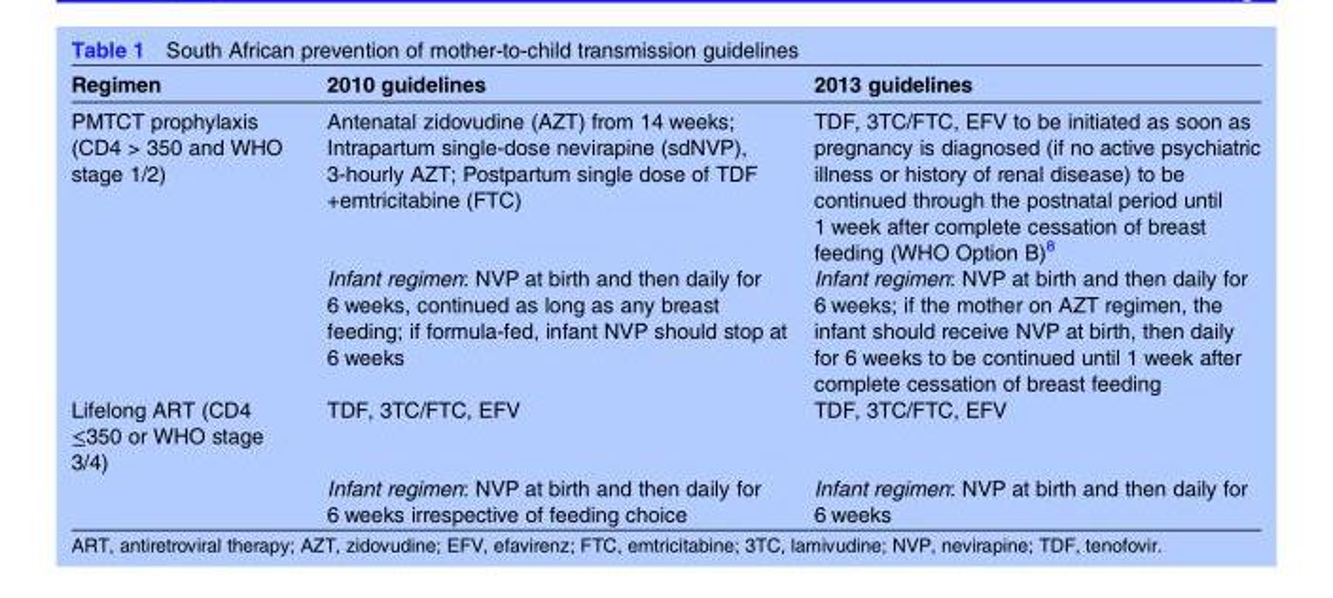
<table><thead><tr><td>Regimen</td><td>2010 guidelines</td><td>2013 guidelines</td></tr></thead><tbody><tr><td rowspan="2">PMTCT prophylaxis (CD4 &gt; 350 and WHO stage 1/2)</td><td>Antenatal zidovudine (AZT) from 14 weeks; Intrapartum single-dose nevirapine (sdNVP), 3-hourly AZT; Postpartum single dose of TDF +emtricitabine (FTC)</td><td>TDF, 3TC/FTC, EFV to be initiated as soon as pregnancy is diagnosed (if no active psychiatric illness or history of renal disease) to be continued through the postnatal period until 1 week after complete cessation of breast feeding (WHO Option B)<sup>8</sup></td></tr><tr><td>Infant regimen: NVP at birth and then daily for 6 weeks, continued as long as any breast feeding; if formula-fed, infant NVP should stop at 6 weeks</td><td>Infant regimen: NVP at birth and then daily for 6 weeks; if the mother on AZT regimen, the infant should receive NVP at birth, then daily for 6 weeks to be continued until 1 week after complete cessation of breast feeding</td></tr><tr><td rowspan="2">Lifelong ART (CD4 ≤350 or WHO stage 3/4)</td><td>TDF, 3TC/FTC, EFV</td><td>TDF, 3TC/FTC, EFV</td></tr><tr><td>Infant regimen: NVP at birth and then daily for 6 weeks irrespective of feeding choice</td><td>Infant regimen: NVP at birth and then daily for 6 weeks</td></tr></tbody></table>